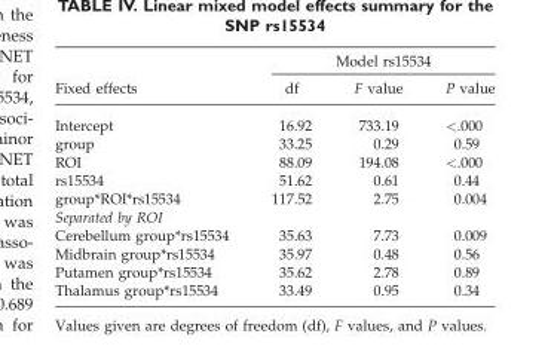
<table><thead><tr><td rowspan="2">Fixed effects</td><td colspan="3">Model rs15534</td></tr><tr><td>df</td><td>F value</td><td>P value</td></tr></thead><tbody><tr><td>Intercept</td><td>16.92</td><td>733.19</td><td>&lt;.000</td></tr><tr><td>group</td><td>33.25</td><td>0.29</td><td>0.59</td></tr><tr><td>ROI</td><td>88.09</td><td>194.08</td><td>&lt;.000</td></tr><tr><td>rs15534</td><td>51.62</td><td>0.61</td><td>0.44</td></tr><tr><td>group*ROI*rs15534</td><td>117.52</td><td>2.75</td><td>0.004</td></tr><tr><td colspan="4">Separated by ROI</td></tr><tr><td>Cerebellum group*rs15534</td><td>35.63</td><td>7.73</td><td>0.009</td></tr><tr><td>Midbrain group*rs15534</td><td>35.97</td><td>0.48</td><td>0.56</td></tr><tr><td>Putamen group*rs15534</td><td>35.62</td><td>2.78</td><td>0.89</td></tr><tr><td>Thalamus group*rs15534</td><td>33.49</td><td>0.95</td><td>0.34</td></tr></tbody></table>